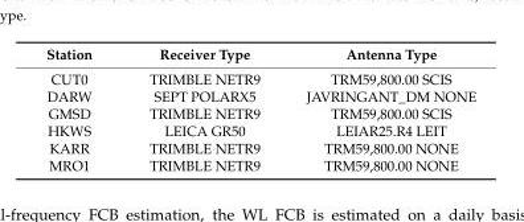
<table><thead><tr><td>Station</td><td>Receiver Type</td><td>Antenna Type</td></tr></thead><tbody><tr><td>CUT0</td><td>TRIMBLE NETR9</td><td>TRM59,800.00 SCIS</td></tr><tr><td>DARW</td><td>SEPT POLARX5</td><td>JAVRINGANT_DM NONE</td></tr><tr><td>GMSD</td><td>TRIMBLE NETR9</td><td>TRM59,800.00 SCIS</td></tr><tr><td>HKWS</td><td>LEICA GR50</td><td>LEIAR25.R4 LEIT</td></tr><tr><td>KARR</td><td>TRIMBLE NETR9</td><td>TRM59,800.00 NONE</td></tr><tr><td>MRO1</td><td>TRIMBLE NETR9</td><td>TRM59,800.00 NONE</td></tr></tbody></table>